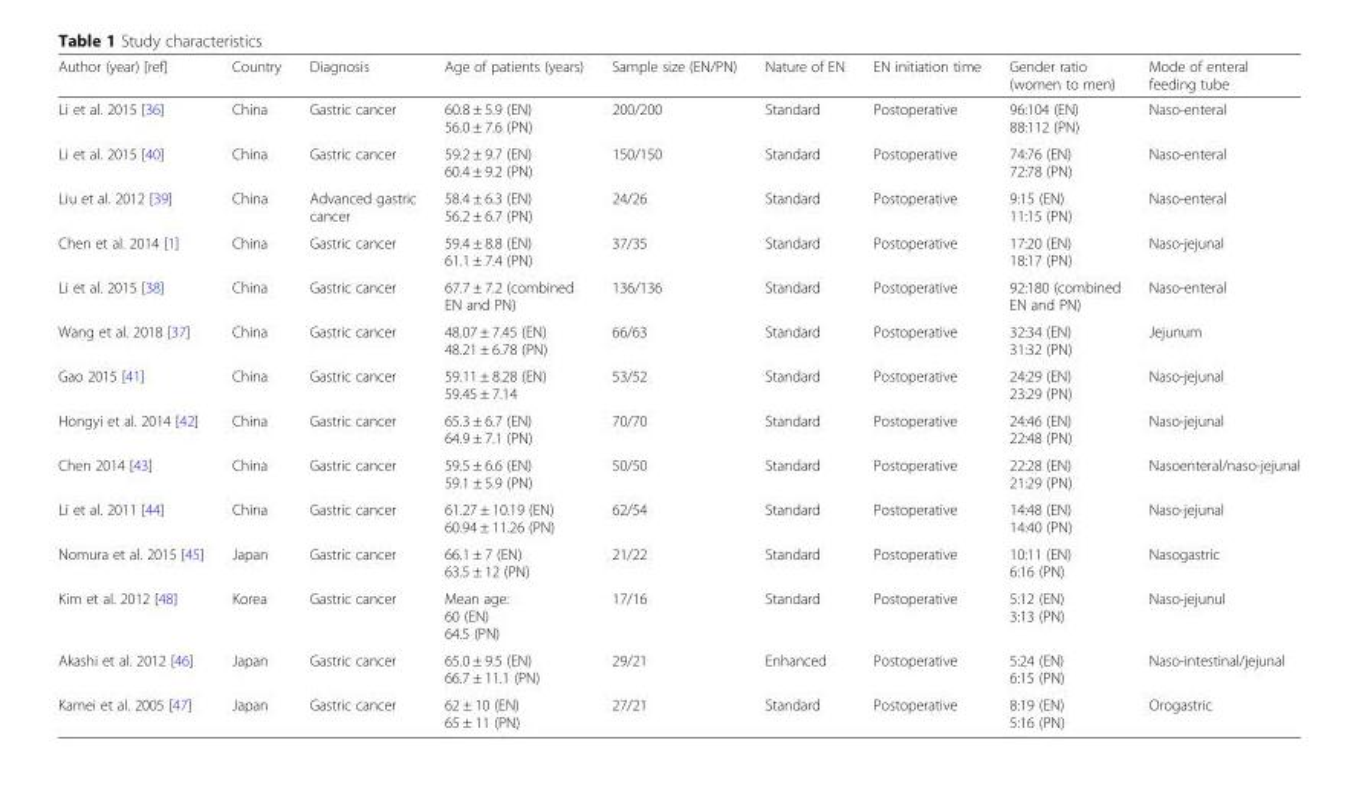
<table><thead><tr><td>Author (year) [ref]</td><td>Country</td><td>Diagnosis</td><td>Age of patients (years)</td><td>Sample size (EN/PN)</td><td>Nature of EN</td><td>EN initiation time</td><td>Gender ratio (women to men)</td><td>Mode of enteral feeding tube</td></tr></thead><tbody><tr><td>Li et al. 2015 [36]</td><td>China</td><td>Gastric cancer</td><td>60.8 ± 5.9 (EN) 56.0 ± 7.6 (PN)</td><td>200/200</td><td>Standard</td><td>Postoperative</td><td>96:104 (EN) 88:112 (PN)</td><td>Naso-enteral</td></tr><tr><td>Li et al. 2015 [40]</td><td>China</td><td>Gastric cancer</td><td>59.2 ± 9.7 (EN) 60.4 ± 9.2 (PN)</td><td>150/150</td><td>Standard</td><td>Postoperative</td><td>74:76 (EN) 72:78 (PN)</td><td>Naso-enteral</td></tr><tr><td>Liu et al. 2012 [39]</td><td>China</td><td>Advanced gastric cancer</td><td>58.4 ± 6.3 (EN) 56.2 ± 6.7 (PN)</td><td>24/26</td><td>Standard</td><td>Postoperative</td><td>9:15 (EN) 11:15 (PN)</td><td>Naso-enteral</td></tr><tr><td>Chen et al. 2014 [1]</td><td>China</td><td>Gastric cancer</td><td>59.4 ± 8.8 (EN) 61.1 ± 7.4 (PN)</td><td>37/35</td><td>Standard</td><td>Postoperative</td><td>17:20 (EN) 18:17 (PN)</td><td>Naso-jejunal</td></tr><tr><td>Li et al. 2015 [38]</td><td>China</td><td>Gastric cancer</td><td>67.7 ± 7.2 (combined EN and PN)</td><td>136/136</td><td>Standard</td><td>Postoperative</td><td>92:180 (combined EN and PN)</td><td>Naso-enteral</td></tr><tr><td>Wang et al. 2018 [37]</td><td>China</td><td>Gastric cancer</td><td>48.07 ± 7.45 (EN) 48.21 ± 6.78 (PN)</td><td>66/63</td><td>Standard</td><td>Postoperative</td><td>32:34 (EN) 31:32 (PN)</td><td>Jejunum</td></tr><tr><td>Gao 2015 [41]</td><td>China</td><td>Gastric cancer</td><td>59.11 ± 8.28 (EN) 59.45 ± 7.14</td><td>53/52</td><td>Standard</td><td>Postoperative</td><td>24:29 (EN) 23:29 (PN)</td><td>Naso-jejunal</td></tr><tr><td>Hongyi et al. 2014 [42]</td><td>China</td><td>Gastric cancer</td><td>65.3 ± 6.7 (EN) 64.9 ± 7.1 (PN)</td><td>70/70</td><td>Standard</td><td>Postoperative</td><td>24:46 (EN) 22:48 (PN)</td><td>Naso-jejunal</td></tr><tr><td>Chen 2014 [43]</td><td>China</td><td>Gastric cancer</td><td>59.5 ± 6.6 (EN) 59.1 ± 5.9 (PN)</td><td>50/50</td><td>Standard</td><td>Postoperative</td><td>22:28 (EN) 21:29 (PN)</td><td>Nasoenteral/naso-jejunal</td></tr><tr><td>Li et al. 2011 [44]</td><td>China</td><td>Gastric cancer</td><td>61.27 ± 10.19 (EN) 60.94 ± 11.26 (PN)</td><td>62/54</td><td>Standard</td><td>Postoperative</td><td>14:48 (EN) 14:40 (PN)</td><td>Naso-jejunal</td></tr><tr><td>Nomura et al. 2015 [45]</td><td>Japan</td><td>Gastric cancer</td><td>66.1 ± 7 (EN) 63.5 ± 12 (PN)</td><td>21/22</td><td>Standard</td><td>Postoperative</td><td>10:11 (EN) 6:16 (PN)</td><td>Nasogastric</td></tr><tr><td>Kim et al. 2012 [48]</td><td>Korea</td><td>Gastric cancer</td><td>Mean age: 60 (EN) 64.5 (PN)</td><td>17/16</td><td>Standard</td><td>Postoperative</td><td>5:12 (EN) 3:13 (PN)</td><td>Naso-jejunul</td></tr><tr><td>Akashi et al. 2012 [46]</td><td>Japan</td><td>Gastric cancer</td><td>65.0 ± 9.5 (EN) 66.7 ± 11.1 (PN)</td><td>29/21</td><td>Enhanced</td><td>Postoperative</td><td>5:24 (EN) 6:15 (PN)</td><td>Naso-intestinal/jejunal</td></tr><tr><td>Kamei et al. 2005 [47]</td><td>Japan</td><td>Gastric cancer</td><td>62 ± 10 (EN) 65 ± 11 (PN)</td><td>27/21</td><td>Standard</td><td>Postoperative</td><td>8:19 (EN) 5:16 (PN)</td><td>Orogastric</td></tr></tbody></table>